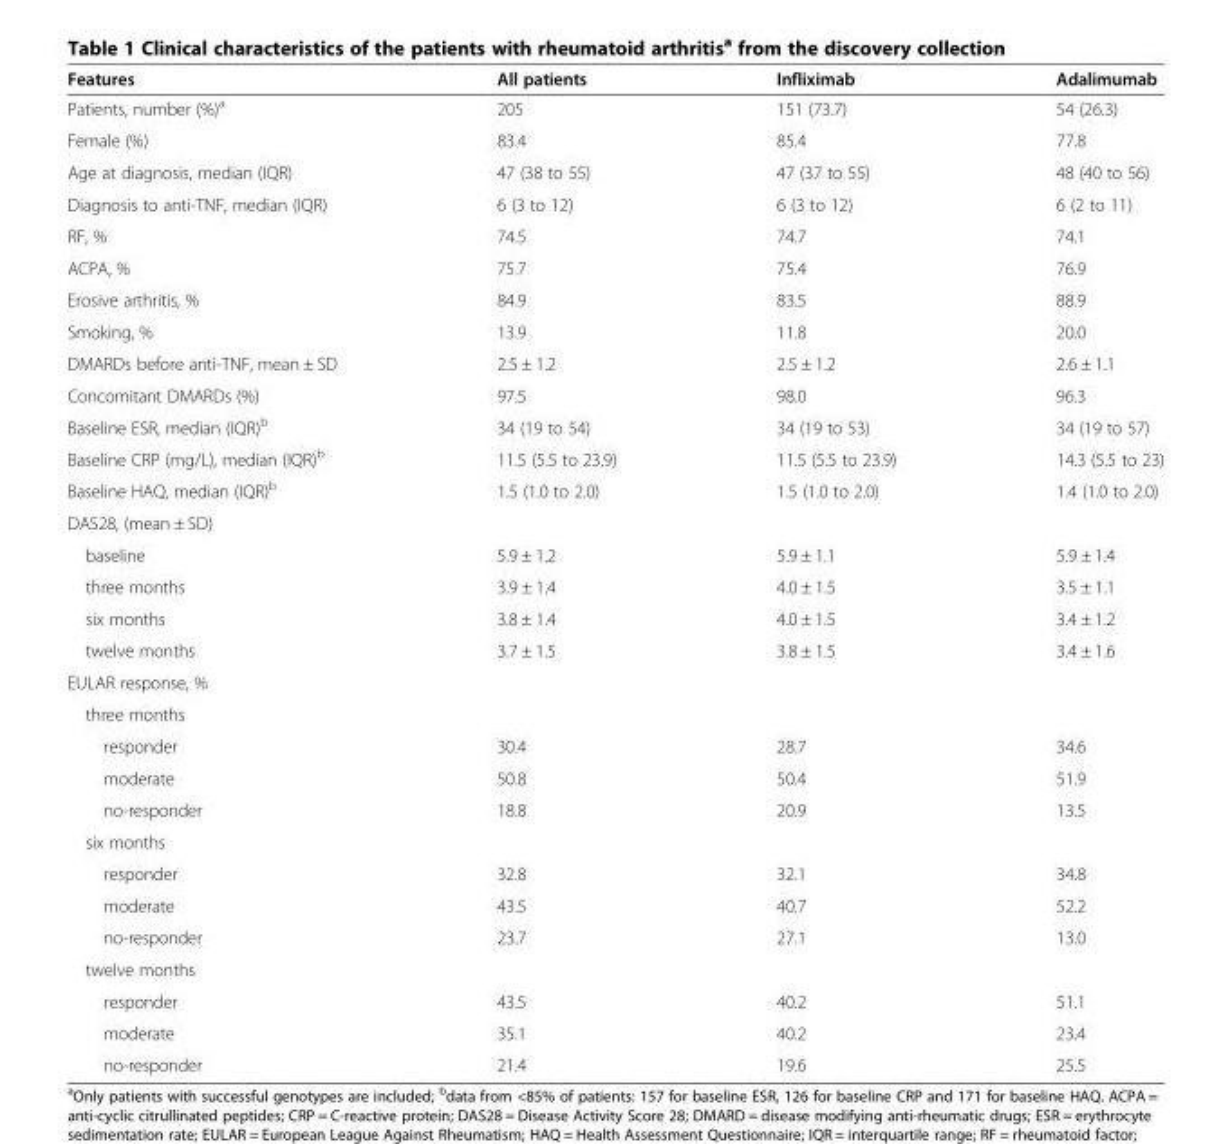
<table><thead><tr><td>Features</td><td>All patients</td><td>Infliximab</td><td>Adalimumab</td></tr></thead><tbody><tr><td>Patients, number (%)<sup>a</sup></td><td>205</td><td>151 (73.7)</td><td>54 (26.3)</td></tr><tr><td>Female (%)</td><td>83.4</td><td>85.4</td><td>77.8</td></tr><tr><td>Age at diagnosis, median (IQR)</td><td>47 (38 to 55)</td><td>47 (37 to 55)</td><td>48 (40 to 56)</td></tr><tr><td>Diagnosis to anti-TNF, median (IQR)</td><td>6 (3 to 12)</td><td>6 (3 to 12)</td><td>6 (2 to 11)</td></tr><tr><td>RF, %</td><td>74.5</td><td>74.7</td><td>74.1</td></tr><tr><td>ACPA, %</td><td>75.7</td><td>75.4</td><td>76.9</td></tr><tr><td>Erosive arthritis, %</td><td>84.9</td><td>83.5</td><td>88.9</td></tr><tr><td>Smoking, %</td><td>13.9</td><td>11.8</td><td>20.0</td></tr><tr><td>DMARDs before anti-TNF, mean ± SD</td><td>2.5 ± 1.2</td><td>2.5 ± 1.2</td><td>2.6 ± 1.1</td></tr><tr><td>Concomitant DMARDs (%)</td><td>97.5</td><td>98.0</td><td>96.3</td></tr><tr><td>Baseline ESR, median (IQR)<sup>b</sup></td><td>34 (19 to 54)</td><td>34 (19 to 53)</td><td>34 (19 to 57)</td></tr><tr><td>Baseline CRP (mg/L), median (IQR)<sup>b</sup></td><td>11.5 (5.5 to 23.9)</td><td>11.5 (5.5 to 23.9)</td><td>14.3 (5.5 to 23)</td></tr><tr><td>Baseline HAQ, median (IQR)<sup>b</sup></td><td>1.5 (1.0 to 2.0)</td><td>1.5 (1.0 to 2.0)</td><td>1.4 (1.0 to 2.0)</td></tr><tr><td colspan="4">DAS28, (mean ± SD)</td></tr><tr><td>baseline</td><td>5.9 ± 1.2</td><td>5.9 ± 1.1</td><td>5.9 ± 1.4</td></tr><tr><td>three months</td><td>3.9 ± 1.4</td><td>4.0 ± 1.5</td><td>3.5 ± 1.1</td></tr><tr><td>six months</td><td>3.8 ± 1.4</td><td>4.0 ± 1.5</td><td>3.4 ± 1.2</td></tr><tr><td>twelve months</td><td>3.7 ± 1.5</td><td>3.8 ± 1.5</td><td>3.4 ± 1.6</td></tr><tr><td colspan="4">EULAR response, %</td></tr><tr><td colspan="4">three months</td></tr><tr><td>responder</td><td>30.4</td><td>28.7</td><td>34.6</td></tr><tr><td>moderate</td><td>50.8</td><td>50.4</td><td>51.9</td></tr><tr><td>no-responder</td><td>18.8</td><td>20.9</td><td>13.5</td></tr><tr><td colspan="4">six months</td></tr><tr><td>responder</td><td>32.8</td><td>32.1</td><td>34.8</td></tr><tr><td>moderate</td><td>43.5</td><td>40.7</td><td>52.2</td></tr><tr><td>no-responder</td><td>23.7</td><td>27.1</td><td>13.0</td></tr><tr><td colspan="4">twelve months</td></tr><tr><td>responder</td><td>43.5</td><td>40.2</td><td>51.1</td></tr><tr><td>moderate</td><td>35.1</td><td>40.2</td><td>23.4</td></tr><tr><td>no-responder</td><td>21.4</td><td>19.6</td><td>25.5</td></tr></tbody></table>